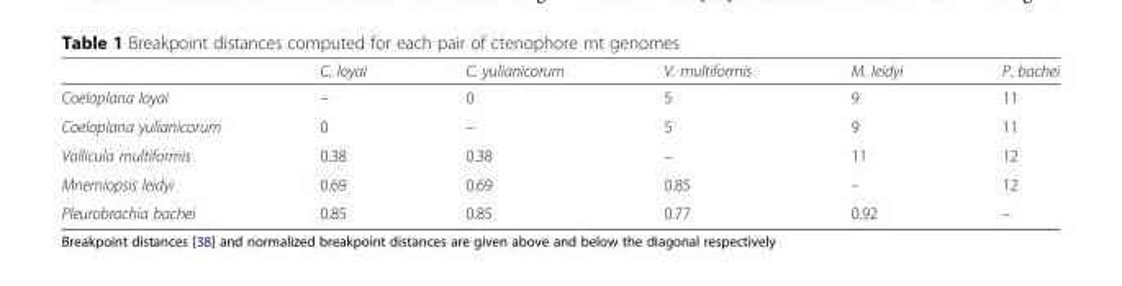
<table><thead><tr><td></td><td>C. loyai</td><td>C. yulianicorum</td><td>V. multiformis</td><td>M. leidyi</td><td>P. bachei</td></tr></thead><tbody><tr><td>Coeloplana loyai</td><td>–</td><td>0</td><td>5</td><td>9</td><td>11</td></tr><tr><td>Coeloplana yulianicorum</td><td>0</td><td>–</td><td>5</td><td>9</td><td>11</td></tr><tr><td>Vallicula multiformis</td><td>0.38</td><td>0.38</td><td>–</td><td>11</td><td>12</td></tr><tr><td>Mnemiopsis leidyi</td><td>0.69</td><td>0.69</td><td>0.85</td><td>–</td><td>12</td></tr><tr><td>Pleurobrachia bachei</td><td>0.85</td><td>0.85</td><td>0.77</td><td>0.92</td><td>–</td></tr></tbody></table>